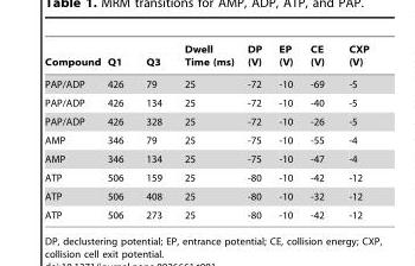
<table><thead><tr><td>Compound</td><td>Q1</td><td>Q3</td><td>Dwell Time (ms)</td><td>DP (V)</td><td>EP (V)</td><td>CE (V)</td><td>CXP (V)</td></tr></thead><tbody><tr><td>PAP/ADP</td><td>426</td><td>79</td><td>25</td><td>-72</td><td>-10</td><td>-69</td><td>-5</td></tr><tr><td>PAP/ADP</td><td>426</td><td>134</td><td>25</td><td>-72</td><td>-10</td><td>-40</td><td>-5</td></tr><tr><td>PAP/ADP</td><td>426</td><td>328</td><td>25</td><td>-72</td><td>-10</td><td>-26</td><td>-5</td></tr><tr><td>AMP</td><td>346</td><td>79</td><td>25</td><td>-75</td><td>-10</td><td>-55</td><td>-4</td></tr><tr><td>AMP</td><td>346</td><td>134</td><td>25</td><td>-75</td><td>-10</td><td>-47</td><td>-4</td></tr><tr><td>ATP</td><td>506</td><td>159</td><td>25</td><td>-80</td><td>-10</td><td>-42</td><td>-12</td></tr><tr><td>ATP</td><td>506</td><td>408</td><td>25</td><td>-80</td><td>-10</td><td>-32</td><td>-12</td></tr><tr><td>ATP</td><td>506</td><td>273</td><td>25</td><td>-80</td><td>-10</td><td>-42</td><td>-12</td></tr></tbody></table>